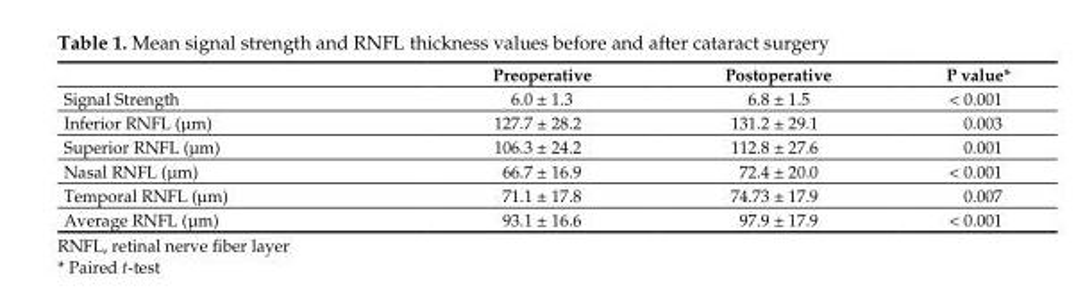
<table><thead><tr><td></td><td>Preoperative</td><td>Postoperative</td><td>P value*</td></tr></thead><tbody><tr><td>Signal Strength</td><td>6.0 ± 1.3</td><td>6.8 ± 1.5</td><td>&lt; 0.001</td></tr><tr><td>Inferior RNFL (µm)</td><td>127.7 ± 28.2</td><td>131.2 ± 29.1</td><td>0.003</td></tr><tr><td>Superior RNFL (µm)</td><td>106.3 ± 24.2</td><td>112.8 ± 27.6</td><td>0.001</td></tr><tr><td>Nasal RNFL (µm)</td><td>66.7 ± 16.9</td><td>72.4 ± 20.0</td><td>&lt; 0.001</td></tr><tr><td>Temporal RNFL (µm)</td><td>71.1 ± 17.8</td><td>74.73 ± 17.9</td><td>0.007</td></tr><tr><td>Average RNFL (µm)</td><td>93.1 ± 16.6</td><td>97.9 ± 17.9</td><td>&lt; 0.001</td></tr></tbody></table>